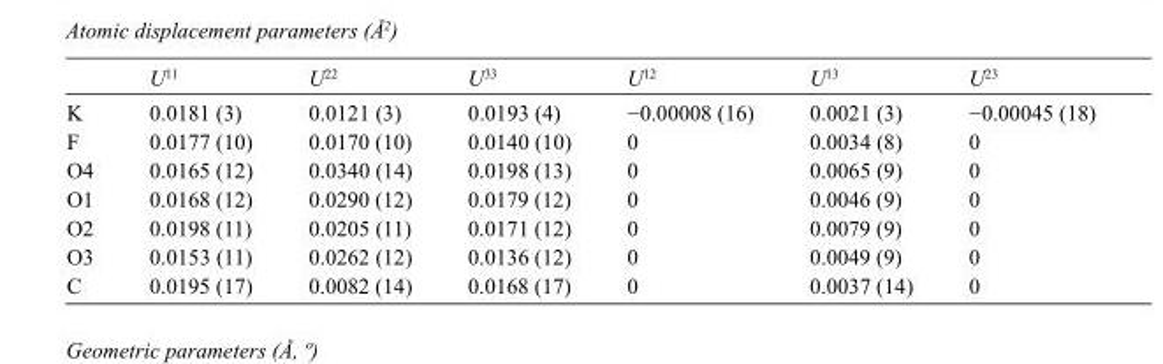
<table><thead><tr><td></td><td>U<sup>11</sup></td><td>U<sup>22</sup></td><td>U<sup>33</sup></td><td>U<sup>12</sup></td><td>U<sup>13</sup></td><td>U<sup>23</sup></td></tr></thead><tbody><tr><td>K</td><td>0.0181 (3)</td><td>0.0121 (3)</td><td>0.0193 (4)</td><td>−0.00008 (16)</td><td>0.0021 (3)</td><td>−0.00045 (18)</td></tr><tr><td>F</td><td>0.0177 (10)</td><td>0.0170 (10)</td><td>0.0140 (10)</td><td>0</td><td>0.0034 (8)</td><td>0</td></tr><tr><td>O4</td><td>0.0165 (12)</td><td>0.0340 (14)</td><td>0.0198 (13)</td><td>0</td><td>0.0065 (9)</td><td>0</td></tr><tr><td>O1</td><td>0.0168 (12)</td><td>0.0290 (12)</td><td>0.0179 (12)</td><td>0</td><td>0.0046 (9)</td><td>0</td></tr><tr><td>O2</td><td>0.0198 (11)</td><td>0.0205 (11)</td><td>0.0171 (12)</td><td>0</td><td>0.0079 (9)</td><td>0</td></tr><tr><td>O3</td><td>0.0153 (11)</td><td>0.0262 (12)</td><td>0.0136 (12)</td><td>0</td><td>0.0049 (9)</td><td>0</td></tr><tr><td>C</td><td>0.0195 (17)</td><td>0.0082 (14)</td><td>0.0168 (17)</td><td>0</td><td>0.0037 (14)</td><td>0</td></tr></tbody></table>